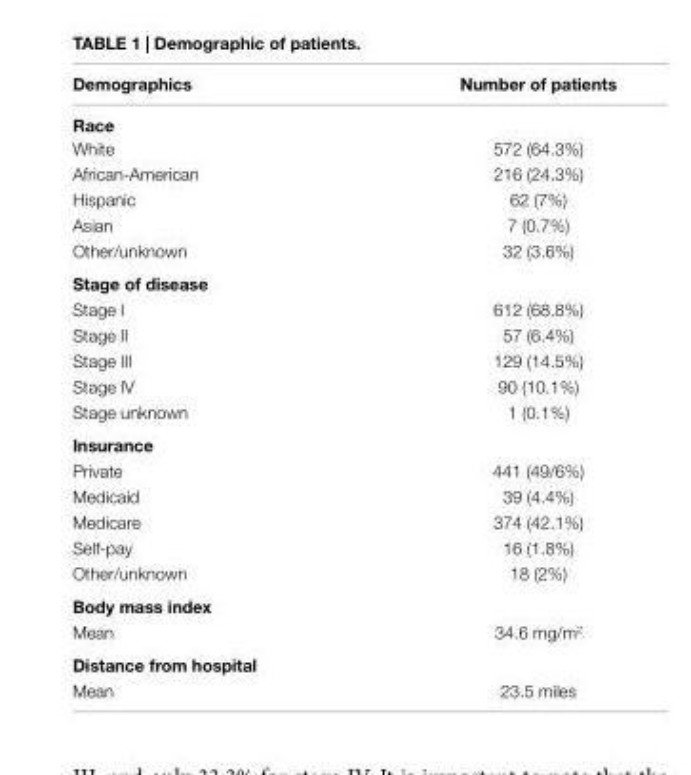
<table><thead><tr><td>Demographics</td><td>number of patients</td></tr></thead><tbody><tr><td colspan="2">race</td></tr><tr><td>White</td><td>572 (64.3%)</td></tr><tr><td>African-American</td><td>216 (24.3%)</td></tr><tr><td>Hispanic</td><td>62 (7%)</td></tr><tr><td>Asian</td><td>7 (0.7%)</td></tr><tr><td>Other/unknown</td><td>32 (3.6%)</td></tr><tr><td colspan="2">stage of disease</td></tr><tr><td>Stage I</td><td>612 (68.8%)</td></tr><tr><td>Stage II</td><td>57 (6.4%)</td></tr><tr><td>Stage III</td><td>129 (14.5%)</td></tr><tr><td>Stage IV</td><td>90 (10.1%)</td></tr><tr><td>Stage unknown</td><td>1 (0.1%)</td></tr><tr><td colspan="2">insurance</td></tr><tr><td>Private</td><td>441 (49/6%)</td></tr><tr><td>Medicaid</td><td>39 (4.4%)</td></tr><tr><td>Medicare</td><td>374 (42.1%)</td></tr><tr><td>Self-pay</td><td>16 (1.8%)</td></tr><tr><td>Other/unknown</td><td>18 (2%)</td></tr><tr><td colspan="2">Body mass index</td></tr><tr><td>Mean</td><td>34.6 mg/m<sup>2</sup></td></tr><tr><td colspan="2">Distance from hospital</td></tr><tr><td>Mean</td><td>23.5 miles</td></tr></tbody></table>